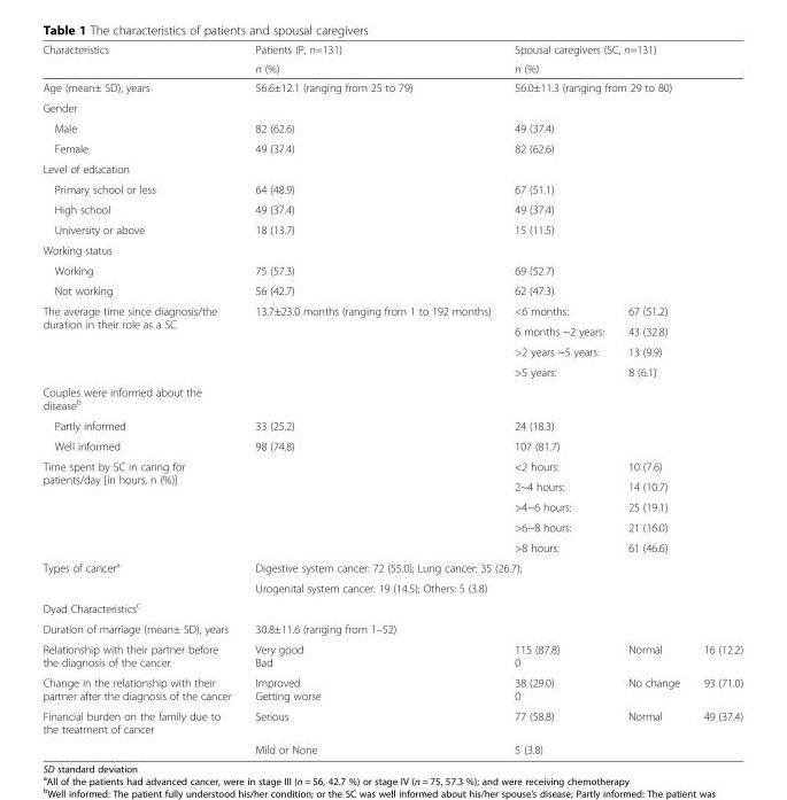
<table><thead><tr><td rowspan="3">Characteristics Age (mean± SD), years</td><td rowspan="3">Patients (P, n=131) n (%) 56.6±12.1 (ranging from 25 to 79)</td><td rowspan="3" colspan="3">Spousal caregivers (SC, n=131) n (%) 56.0±11.3 (ranging from 29 to 80)</td></tr><tr></tr><tr></tr><tr><td colspan="5">Gender</td></tr><tr><td>Male</td><td>82 (62.6)</td><td>49 (37.4)</td><td></td><td></td></tr></thead><tbody><tr><td>Female</td><td>49 (37.4)</td><td>82 (62.6)</td><td></td><td></td></tr><tr><td colspan="5">Level of education</td></tr><tr><td>Primary school or less</td><td>64 (48.9)</td><td>67 (51.1)</td><td></td><td></td></tr><tr><td>High school</td><td>49 (37.4)</td><td>49 (37.4)</td><td></td><td></td></tr><tr><td>University or above</td><td>18 (13.7)</td><td>15 (11.5)</td><td></td><td></td></tr><tr><td colspan="5">Working status</td></tr><tr><td>Working</td><td>75 (57.3)</td><td>69 (52.7)</td><td></td><td></td></tr><tr><td>Not working</td><td>56 (42.7)</td><td>62 (47.3)</td><td></td><td></td></tr><tr><td rowspan="4">The average time since diagnosis/the duration in their role as a SC</td><td rowspan="4">13.7±23.0 months (ranging from 1 to 192 months)</td><td>&lt;6 months:</td><td>67 (51.2)</td><td></td></tr><tr><td>6 months ~2 years:</td><td>43 (32.8)</td><td></td></tr><tr><td>&gt;2 years ~5 years:</td><td>13 (9.9)</td><td></td></tr><tr><td>&gt;5 years:</td><td>8 (6.1)</td><td></td></tr><tr><td colspan="5">Couples were informed about the disease<sup>b</sup></td></tr><tr><td>Partly informed</td><td>33 (25.2)</td><td colspan="3">24 (18.3)</td></tr><tr><td>Well informed</td><td>98 (74.8)</td><td colspan="3">107 (81.7)</td></tr><tr><td rowspan="5">Time spent by SC in caring for patients/day [in hours, n (%)]</td><td rowspan="5"></td><td>&lt;2 hours:</td><td>10 (7.6)</td><td></td></tr><tr><td>2~4 hours:</td><td>14 (10.7)</td><td></td></tr><tr><td>&gt;4~6 hours:</td><td>25 (19.1)</td><td></td></tr><tr><td>&gt;6~8 hours:</td><td>21 (16.0)</td><td></td></tr><tr><td>&gt;8 hours:</td><td>61 (46.6)</td><td></td></tr><tr><td rowspan="2">Types of cancer<sup>a</sup></td><td colspan="4">Digestive system cancer: 72 (55.0); Lung cancer: 35 (26.7);</td></tr><tr><td colspan="4">Urogenital system cancer: 19 (14.5); Others: 5 (3.8)</td></tr><tr><td colspan="5">Dyad Characteristics<sup>c</sup></td></tr><tr><td>Duration of marriage (mean± SD), years</td><td colspan="4">30.8±11.6 (ranging from 1–52)</td></tr><tr><td>Relationship with their partner before the diagnosis of the cancer</td><td>Very good Bad</td><td>115 (87.8) 0</td><td>Normal</td><td>16 (12.2)</td></tr><tr><td>Change in the relationship with their partner after the diagnosis of the cancer</td><td>Improved Getting worse</td><td>38 (29.0) 0</td><td>No change</td><td>93 (71.0)</td></tr><tr><td rowspan="2">Financial burden on the family due to the treatment of cancer</td><td>Serious</td><td>77 (58.8)</td><td>Normal</td><td>49 (37.4)</td></tr><tr><td>Mild or None</td><td>5 (3.8)</td><td></td><td></td></tr></tbody></table>